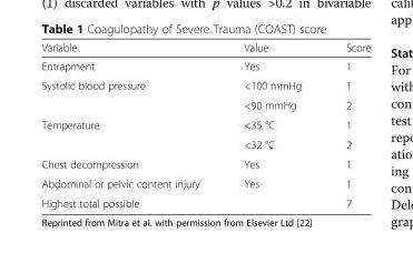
<table><thead><tr><td>Variable</td><td>Value</td><td>Score</td></tr></thead><tbody><tr><td>Entrapment</td><td>Yes</td><td>1</td></tr><tr><td rowspan="2">Systolic blood pressure</td><td>&lt;100 mmHg</td><td>1</td></tr><tr><td>&lt;90 mmHg</td><td>2</td></tr><tr><td rowspan="2">Temperature</td><td>&lt;35 °C</td><td>1</td></tr><tr><td>&lt;32 °C</td><td>2</td></tr><tr><td>Chest decompression</td><td>Yes</td><td>1</td></tr><tr><td>Abdominal or pelvic content injury</td><td>Yes</td><td>1</td></tr><tr><td>Highest total possible</td><td></td><td>7</td></tr></tbody></table>